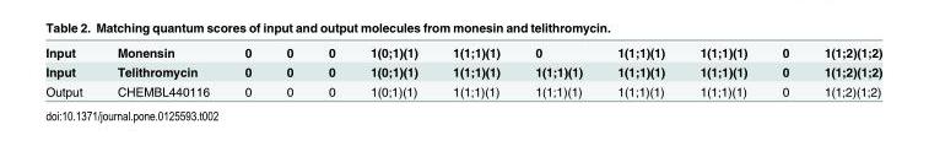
<table><tbody><tr><td>Input</td><td>Monensin</td><td>0</td><td>0</td><td>0</td><td>1(0;1)(1)</td><td>1(1;1)(1)</td><td>0</td><td>1(1;1)(1)</td><td>1(1;1)(1)</td><td>0</td><td>1(1;2)(1;2)</td></tr><tr><td>Input</td><td>Telithromycin</td><td>0</td><td>0</td><td>0</td><td>1(0;1)(1)</td><td>1(1;1)(1)</td><td>1(1;1)(1)</td><td>1(1;1)(1)</td><td>1(1;1)(1)</td><td>0</td><td>1(1;2)(1;2)</td></tr><tr><td>Output</td><td>CHEMBL440116</td><td>0</td><td>0</td><td>0</td><td>1(0;1)(1)</td><td>1(1;1)(1)</td><td>1(1;1)(1)</td><td>1(1;1)(1)</td><td>1(1;1)(1)</td><td>0</td><td>1(1;2)(1;2)</td></tr></tbody></table>